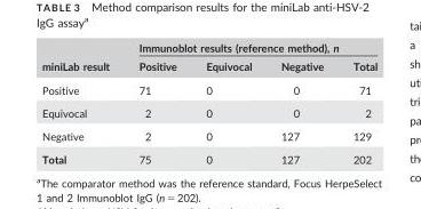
<table><thead><tr><td rowspan="2">miniLab result</td><td colspan="4">Immunoblot results (reference method), n</td></tr><tr><td>Positive</td><td>Equivocal</td><td>Negative</td><td>Total</td></tr></thead><tbody><tr><td>Positive</td><td>71</td><td>0</td><td>0</td><td>71</td></tr><tr><td>Equivocal</td><td>2</td><td>0</td><td>0</td><td>2</td></tr><tr><td>Negative</td><td>2</td><td>0</td><td>127</td><td>129</td></tr><tr><td>Total</td><td>75</td><td>0</td><td>127</td><td>202</td></tr></tbody></table>